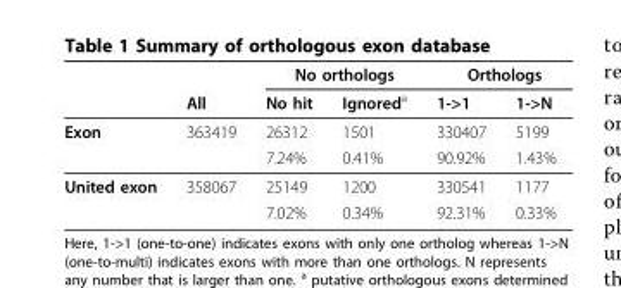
<table><thead><tr><td rowspan="2"></td><td rowspan="2">All</td><td colspan="2">No orthologs</td><td colspan="2">Orthologs</td></tr><tr><td>No hit</td><td>Ignored<sup>a</sup></td><td>1-&gt;1</td><td>1-&gt;N</td></tr></thead><tbody><tr><td rowspan="2">Exon</td><td>363419</td><td>26312</td><td>1501</td><td>330407</td><td>5199</td></tr><tr><td></td><td>7.24%</td><td>0.41%</td><td>90.92%</td><td>1.43%</td></tr><tr><td rowspan="2">United exon</td><td>358067</td><td>25149</td><td>1200</td><td>330541</td><td>1177</td></tr><tr><td></td><td>7.02%</td><td>0.34%</td><td>92.31%</td><td>0.33%</td></tr></tbody></table>